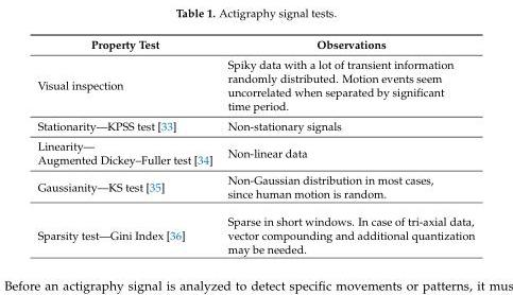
<table><thead><tr><td>Property Test</td><td>Observations</td></tr></thead><tbody><tr><td>Visual inspection</td><td>Spiky data with a lot of transient information randomly distributed. Motion events seem uncorrelated when separated by significant time period.</td></tr><tr><td>Stationarity—KPSS test [33]</td><td>Non-stationary signals</td></tr><tr><td>Linearity— Augmented Dickey–Fuller test [34]</td><td>Non-linear data</td></tr><tr><td>Gaussianity—KS test [35]</td><td>Non-Gaussian distribution in most cases, since human motion is random.</td></tr><tr><td>Sparsity test—Gini Index [36]</td><td>Sparse in short windows. In case of tri-axial data, vector compounding and additional quantization may be needed.</td></tr></tbody></table>